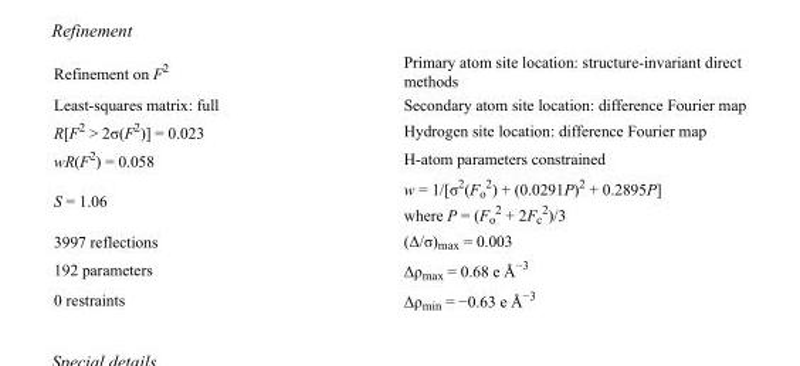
<table><tbody><tr><td>Refinement on F<sup>2</sup></td><td>Primary atom site location: structure-invariant direct methods</td></tr><tr><td>Least-squares matrix: full</td><td>Secondary atom site location: difference Fourier map</td></tr><tr><td>R[F<sup>2</sup> &gt; 2σ(F<sup>2</sup>)] = 0.023</td><td>Hydrogen site location: difference Fourier map</td></tr><tr><td>wR(F<sup>2</sup>) = 0.058</td><td>H-atom parameters constrained</td></tr><tr><td>S = 1.06</td><td>w = 1/[σ<sup>2</sup>(F<sub>o</sub> <sup>2</sup>) + (0.0291P)<sup>2</sup> + 0.2895P] where P = (F<sub>o</sub> <sup>2</sup> + 2F<sub>c</sub> <sup>2</sup>)/3</td></tr><tr><td>3997 reflections</td><td>(Δ/σ)<sub>max</sub> = 0.003</td></tr><tr><td>192 parameters</td><td>Δρ<sub>max</sub> = 0.68 e Å<sup>−3</sup></td></tr><tr><td>0 restraints</td><td>Δρ<sub>min</sub> = −0.63 e Å<sup>−3</sup></td></tr></tbody></table>